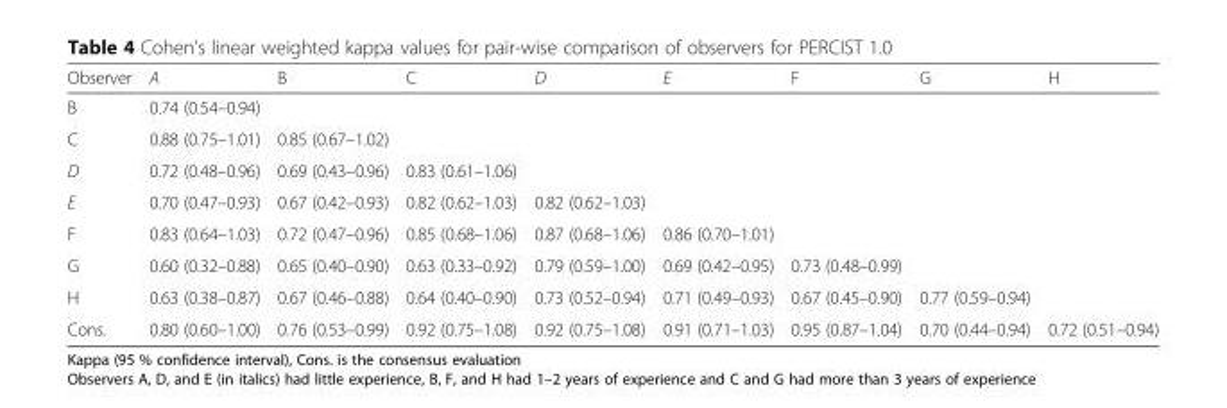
<table><thead><tr><td>Observer</td><td>A</td><td>B</td><td>C</td><td>D</td><td>E</td><td>F</td><td>G</td><td>H</td></tr></thead><tbody><tr><td>B</td><td>0.74 (0.54–0.94)</td><td></td><td></td><td></td><td></td><td></td><td></td><td></td></tr><tr><td>C</td><td>0.88 (0.75–1.01)</td><td>0.85 (0.67–1.02)</td><td></td><td></td><td></td><td></td><td></td><td></td></tr><tr><td>D</td><td>0.72 (0.48–0.96)</td><td>0.69 (0.43–0.96)</td><td>0.83 (0.61–1.06)</td><td></td><td></td><td></td><td></td><td></td></tr><tr><td>E</td><td>0.70 (0.47–0.93)</td><td>0.67 (0.42–0.93)</td><td>0.82 (0.62–1.03)</td><td>0.82 (0.62–1.03)</td><td></td><td></td><td></td><td></td></tr><tr><td>F</td><td>0.83 (0.64–1.03)</td><td>0.72 (0.47–0.96)</td><td>0.85 (0.68–1.06)</td><td>0.87 (0.68–1.06)</td><td>0.86 (0.70–1.01)</td><td></td><td></td><td></td></tr><tr><td>G</td><td>0.60 (0.32–0.88)</td><td>0.65 (0.40–0.90)</td><td>0.63 (0.33–0.92)</td><td>0.79 (0.59–1.00)</td><td>0.69 (0.42–0.95)</td><td>0.73 (0.48–0.99)</td><td></td><td></td></tr><tr><td>H</td><td>0.63 (0.38–0.87)</td><td>0.67 (0.46–0.88)</td><td>0.64 (0.40–0.90)</td><td>0.73 (0.52–0.94)</td><td>0.71 (0.49–0.93)</td><td>0.67 (0.45–0.90)</td><td>0.77 (0.59–0.94)</td><td></td></tr><tr><td>Cons.</td><td>0.80 (0.60–1.00)</td><td>0.76 (0.53–0.99)</td><td>0.92 (0.75–1.08)</td><td>0.92 (0.75–1.08)</td><td>0.91 (0.71–1.03)</td><td>0.95 (0.87–1.04)</td><td>0.70 (0.44–0.94)</td><td>0.72 (0.51–0.94)</td></tr></tbody></table>